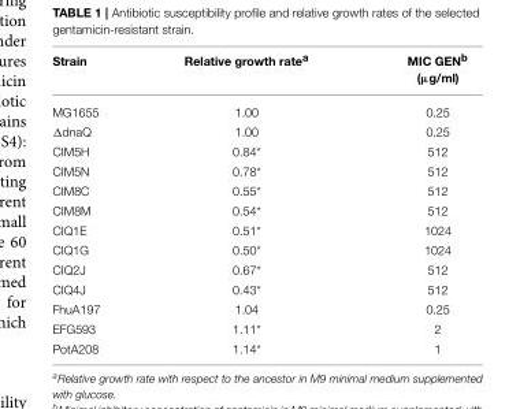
<table><thead><tr><td>Strain</td><td>Relative growth rate<sup>a</sup></td><td>MIC GEN<sup>b</sup> (µg/ml)</td></tr></thead><tbody><tr><td>MG1655</td><td>1.00</td><td>0.25</td></tr><tr><td>ΔdnaQ</td><td>1.00</td><td>0.25</td></tr><tr><td>CIM5H</td><td>0.84*</td><td>512</td></tr><tr><td>CIM5N</td><td>0.78*</td><td>512</td></tr><tr><td>CIM8C</td><td>0.55*</td><td>512</td></tr><tr><td>CIM8M</td><td>0.54*</td><td>512</td></tr><tr><td>CIQ1E</td><td>0.51*</td><td>1024</td></tr><tr><td>CIQ1G</td><td>0.50*</td><td>1024</td></tr><tr><td>CIQ2J</td><td>0.67*</td><td>512</td></tr><tr><td>CIQ4J</td><td>0.43*</td><td>512</td></tr><tr><td>FhuA197</td><td>1.04</td><td>0.25</td></tr><tr><td>EFG593</td><td>1.11*</td><td>2</td></tr><tr><td>PotA208</td><td>1.14*</td><td>1</td></tr></tbody></table>